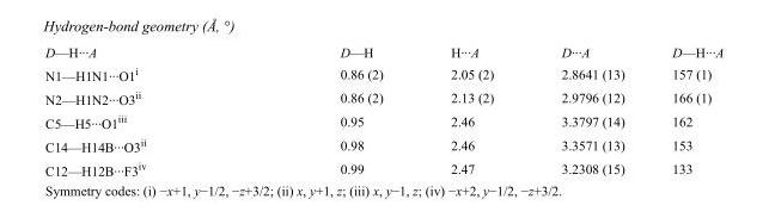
<table><tbody><tr><td>D—H···A</td><td>D—H</td><td>H···A</td><td>D···A</td><td>D—H···A</td></tr><tr><td>N1—H1N1···O1<sup>i</sup></td><td>0.86 (2)</td><td>2.05 (2)</td><td>2.8641 (13)</td><td>157 (1)</td></tr><tr><td>N2—H1N2···O3<sup>ii</sup></td><td>0.86 (2)</td><td>2.13 (2)</td><td>2.9796 (12)</td><td>166 (1)</td></tr><tr><td>C5—H5···O1<sup>iii</sup></td><td>0.95</td><td>2.46</td><td>3.3797 (14)</td><td>162</td></tr><tr><td>C14—H14B···O3<sup>ii</sup></td><td>0.98</td><td>2.46</td><td>3.3571 (13)</td><td>153</td></tr><tr><td>C12—H12B···F3<sup>iv</sup></td><td>0.99</td><td>2.47</td><td>3.2308 (15)</td><td>133</td></tr></tbody></table>